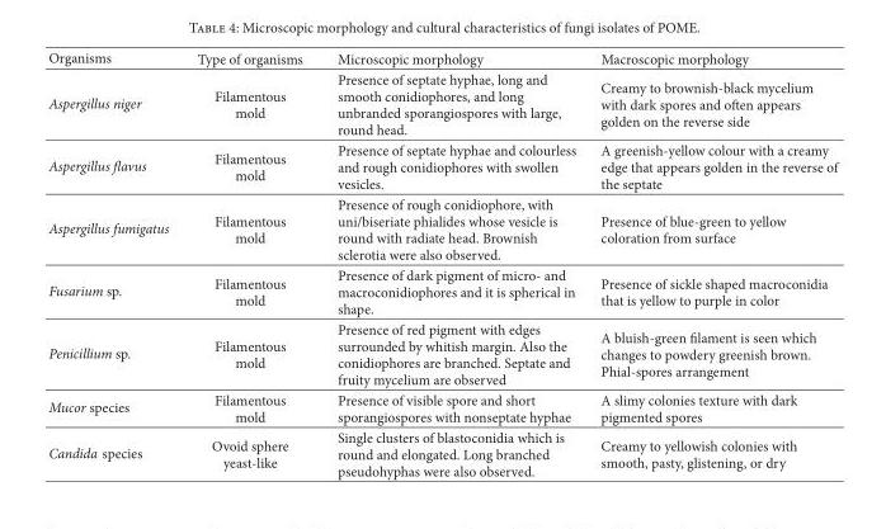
<table><thead><tr><td>Organisms</td><td>Type of organisms</td><td>Microscopic morphology</td><td>Macroscopic morphology</td></tr></thead><tbody><tr><td>Aspergillus niger</td><td>Filamentous mold</td><td>Presence of septate hyphae, long and smooth conidiophores, and long unbranded sporangiospores with large, round head.</td><td>Creamy to brownish-black mycelium with dark spores and often appears golden on the reverse side</td></tr><tr><td>Aspergillus flavus</td><td>Filamentous mold</td><td>Presence of septate hyphae and colourless and rough conidiophores with swollen vesicles.</td><td>A greenish-yellow colour with a creamy edge that appears golden in the reverse of the septate</td></tr><tr><td>Aspergillus fumigatus</td><td>Filamentous mold</td><td>Presence of rough conidiophore, with uni/biseriate phialides whose vesicle is round with radiate head. Brownish sclerotia were also observed.</td><td>Presence of blue-green to yellow coloration from surface</td></tr><tr><td>Fusarium sp.</td><td>Filamentous mold</td><td>Presence of dark pigment of micro- and macroconidiophores and it is spherical in shape.</td><td>Presence of sickle shaped macroconidia that is yellow to purple in color</td></tr><tr><td>Penicillium sp.</td><td>Filamentous mold</td><td>Presence of red pigment with edges surrounded by whitish margin. Also the conidiophores are branched. Septate and fruity mycelium are observed</td><td>A bluish-green filament is seen which changes to powdery greenish brown. Phial-spores arrangement</td></tr><tr><td>Mucor species</td><td>Filamentous mold</td><td>Presence of visible spore and short sporangiospores with nonseptate hyphae</td><td>A slimy colonies texture with dark pigmented spores</td></tr><tr><td>Candida species</td><td>Ovoid sphere yeast-like</td><td>Single clusters of blastoconidia which is round and elongated. Long branched pseudohyphas were also observed.</td><td>Creamy to yellowish colonies with smooth, pasty, glistening, or dry</td></tr></tbody></table>